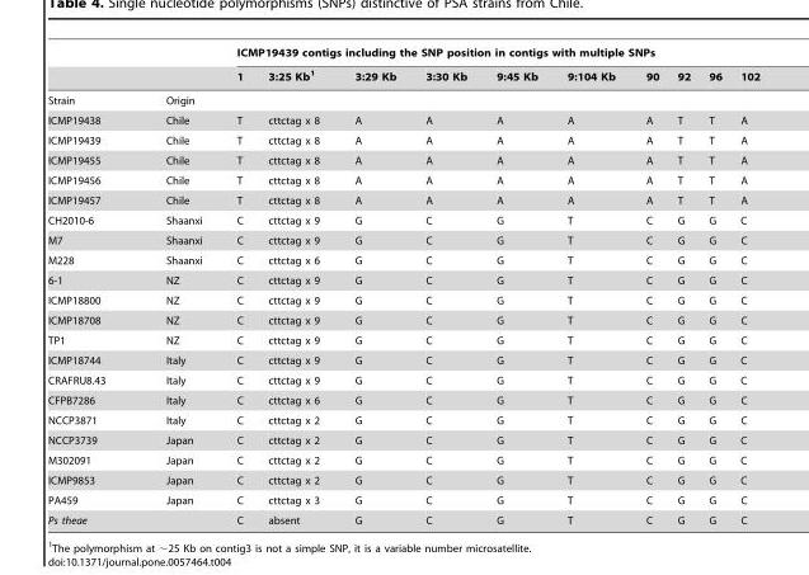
<table><thead><tr><td rowspan="2"></td><td rowspan="2"></td><td colspan="10">ICMP19439 contigs including the SNP position in contigs with multiple SNPs</td></tr><tr><td>1</td><td>3:25 Kb1</td><td>3:29 Kb</td><td>3:30 Kb</td><td>9:45 Kb</td><td>9:104 Kb</td><td>90</td><td>92</td><td>96</td><td>102</td></tr></thead><tbody><tr><td>Strain</td><td>Origin</td><td></td><td></td><td></td><td></td><td></td><td></td><td></td><td></td><td></td><td></td></tr><tr><td>ICMP19438</td><td>Chile</td><td>T</td><td>cttctag x 8</td><td>A</td><td>A</td><td>A</td><td>A</td><td>A</td><td>T</td><td>T</td><td>A</td></tr><tr><td>ICMP19439</td><td>Chile</td><td>T</td><td>cttctag x 8</td><td>A</td><td>A</td><td>A</td><td>A</td><td>A</td><td>T</td><td>T</td><td>A</td></tr><tr><td>ICMP19455</td><td>Chile</td><td>T</td><td>cttctag x 8</td><td>A</td><td>A</td><td>A</td><td>A</td><td>A</td><td>T</td><td>T</td><td>A</td></tr><tr><td>ICMP19456</td><td>Chile</td><td>T</td><td>cttctag x 8</td><td>A</td><td>A</td><td>A</td><td>A</td><td>A</td><td>T</td><td>T</td><td>A</td></tr><tr><td>ICMP19457</td><td>Chile</td><td>T</td><td>cttctag x 8</td><td>A</td><td>A</td><td>A</td><td>A</td><td>A</td><td>T</td><td>T</td><td>A</td></tr><tr><td>CH2010-6</td><td>Shaanxi</td><td>C</td><td>cttctag x 9</td><td>G</td><td>C</td><td>G</td><td>T</td><td>C</td><td>G</td><td>G</td><td>C</td></tr><tr><td>M7</td><td>Shaanxi</td><td>C</td><td>cttctag x 9</td><td>G</td><td>C</td><td>G</td><td>T</td><td>C</td><td>G</td><td>G</td><td>C</td></tr><tr><td>M228</td><td>Shaanxi</td><td>C</td><td>cttctag x 6</td><td>G</td><td>C</td><td>G</td><td>T</td><td>C</td><td>G</td><td>G</td><td>C</td></tr><tr><td>6-1</td><td>NZ</td><td>C</td><td>cttctag x 9</td><td>G</td><td>C</td><td>G</td><td>T</td><td>C</td><td>G</td><td>G</td><td>C</td></tr><tr><td>ICMP18800</td><td>NZ</td><td>C</td><td>cttctag x 9</td><td>G</td><td>C</td><td>G</td><td>T</td><td>C</td><td>G</td><td>G</td><td>C</td></tr><tr><td>ICMP18708</td><td>NZ</td><td>C</td><td>cttctag x 9</td><td>G</td><td>C</td><td>G</td><td>T</td><td>C</td><td>G</td><td>G</td><td>C</td></tr><tr><td>TP1</td><td>NZ</td><td>C</td><td>cttctag x 9</td><td>G</td><td>C</td><td>G</td><td>T</td><td>C</td><td>G</td><td>G</td><td>C</td></tr><tr><td>ICMP18744</td><td>Italy</td><td>C</td><td>cttctag x 9</td><td>G</td><td>C</td><td>G</td><td>T</td><td>C</td><td>G</td><td>G</td><td>C</td></tr><tr><td>CRAFRU8.43</td><td>Italy</td><td>C</td><td>cttctag x 9</td><td>G</td><td>C</td><td>G</td><td>T</td><td>C</td><td>G</td><td>G</td><td>C</td></tr><tr><td>CFPB7286</td><td>Italy</td><td>C</td><td>cttctag x 6</td><td>G</td><td>C</td><td>G</td><td>T</td><td>C</td><td>G</td><td>G</td><td>C</td></tr><tr><td>NCCP3871</td><td>Italy</td><td>C</td><td>cttctag x 2</td><td>G</td><td>C</td><td>G</td><td>T</td><td>C</td><td>G</td><td>G</td><td>C</td></tr><tr><td>NCCP3739</td><td>Japan</td><td>C</td><td>cttctag x 2</td><td>G</td><td>C</td><td>G</td><td>T</td><td>C</td><td>G</td><td>G</td><td>C</td></tr><tr><td>M302091</td><td>Japan</td><td>C</td><td>cttctag x 2</td><td>G</td><td>C</td><td>G</td><td>T</td><td>C</td><td>G</td><td>G</td><td>C</td></tr><tr><td>ICMP9853</td><td>Japan</td><td>C</td><td>cttctag x 2</td><td>G</td><td>C</td><td>G</td><td>T</td><td>C</td><td>G</td><td>G</td><td>C</td></tr><tr><td>PA459</td><td>Japan</td><td>C</td><td>cttctag x 3</td><td>G</td><td>C</td><td>G</td><td>T</td><td>C</td><td>G</td><td>G</td><td>C</td></tr><tr><td>Ps theae</td><td></td><td>C</td><td>absent</td><td>G</td><td>C</td><td>G</td><td>T</td><td>C</td><td>G</td><td>G</td><td>C</td></tr></tbody></table>